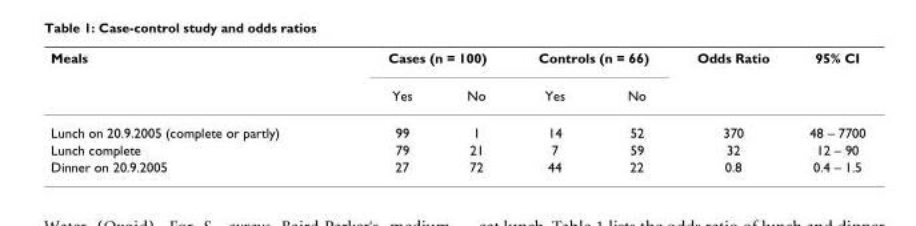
<table><thead><tr><td rowspan="2">Meals</td><td colspan="2">Cases (n = 100)</td><td colspan="2">Controls (n = 66)</td><td rowspan="2">Odds Ratio</td><td rowspan="2">95% CI</td></tr><tr><td>Yes</td><td>No</td><td>Yes</td><td>No</td></tr></thead><tbody><tr><td>Lunch on 20.9.2005 (complete or partly)</td><td>99</td><td>1</td><td>14</td><td>52</td><td>370</td><td>48 – 7700</td></tr><tr><td>Lunch complete</td><td>79</td><td>21</td><td>7</td><td>59</td><td>32</td><td>12 – 90</td></tr><tr><td>Dinner on 20.9.2005</td><td>27</td><td>72</td><td>44</td><td>22</td><td>0.8</td><td>0.4 – 1.5</td></tr></tbody></table>